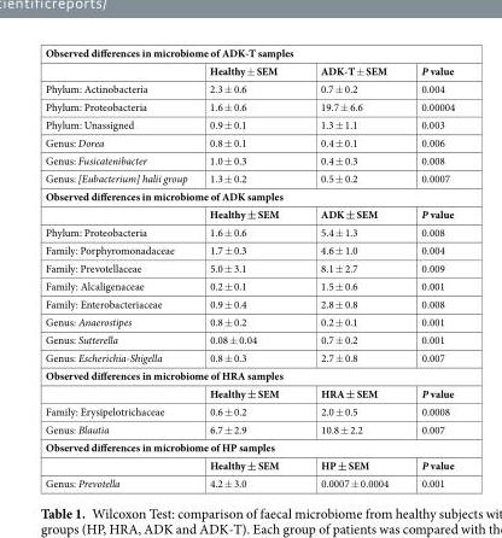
<table><tbody><tr><td colspan="4">Observed differences in microbiome of ADK-T samples</td></tr><tr><td></td><td>Healthy ± SEM</td><td>ADK-T ± SEM</td><td>P value</td></tr><tr><td>Phylum: Actinobacteria</td><td>2.3 ± 0.6</td><td>0.7 ± 0.2</td><td>0.004</td></tr><tr><td>Phylum: Proteobacteria</td><td>1.6 ± 0.6</td><td>19.7 ± 6.6</td><td>0.00004</td></tr><tr><td>Phylum: Unassigned</td><td>0.9 ± 0.1</td><td>1.3 ± 1.1</td><td>0.003</td></tr><tr><td>Genus: Dorea</td><td>0.8 ± 0.1</td><td>0.4 ± 0.1</td><td>0.006</td></tr><tr><td>Genus: Fusicatenibacter</td><td>1.0 ± 0.3</td><td>0.4 ± 0.3</td><td>0.008</td></tr><tr><td>Genus: [Eubacterium] halii group</td><td>1.3 ± 0.2</td><td>0.5 ± 0.2</td><td>0.0007</td></tr><tr><td colspan="4">Observed differences in microbiome of ADK samples</td></tr><tr><td></td><td>Healthy ± SEM</td><td>ADK ± SEM</td><td>P value</td></tr><tr><td>Phylum: Proteobacteria</td><td>1.6 ± 0.6</td><td>5.4 ± 1.3</td><td>0.008</td></tr><tr><td>Family: Porphyromonadaceae</td><td>1.7 ± 0.3</td><td>4.6 ± 1.0</td><td>0.004</td></tr><tr><td>Family: Prevotellaceae</td><td>5.0 ± 3.1</td><td>8.1 ± 2.7</td><td>0.009</td></tr><tr><td>Family: Alcaligenaceae</td><td>0.2 ± 0.1</td><td>1.5 ± 0.6</td><td>0.001</td></tr><tr><td>Family: Enterobacteriaceae</td><td>0.9 ± 0.4</td><td>2.8 ± 0.8</td><td>0.008</td></tr><tr><td>Genus: Anaerostipes</td><td>0.8 ± 0.2</td><td>0.2 ± 0.1</td><td>0.001</td></tr><tr><td>Genus: Sutterella</td><td>0.08 ± 0.04</td><td>0.7 ± 0.2</td><td>0.001</td></tr><tr><td>Genus: Escherichia-Shigella</td><td>0.8 ± 0.3</td><td>2.7 ± 0.8</td><td>0.007</td></tr><tr><td colspan="4">Observed differences in microbiome of HRA samples</td></tr><tr><td></td><td>Healthy ± SEM</td><td>HRA ± SEM</td><td>P value</td></tr><tr><td>Family: Erysipelotrichaceae</td><td>0.6 ± 0.2</td><td>2.0 ± 0.5</td><td>0.0008</td></tr><tr><td>Genus: Blautia</td><td>6.7 ± 2.9</td><td>10.8 ± 2.2</td><td>0.007</td></tr><tr><td colspan="4">Observed differences in microbiome of HP samples</td></tr><tr><td></td><td>Healthy ± SEM</td><td>HP ± SEM</td><td>P value</td></tr><tr><td>Genus: Prevotella</td><td>4.2 ± 3.0</td><td>0.0007 ± 0.0004</td><td>0.001</td></tr></tbody></table>